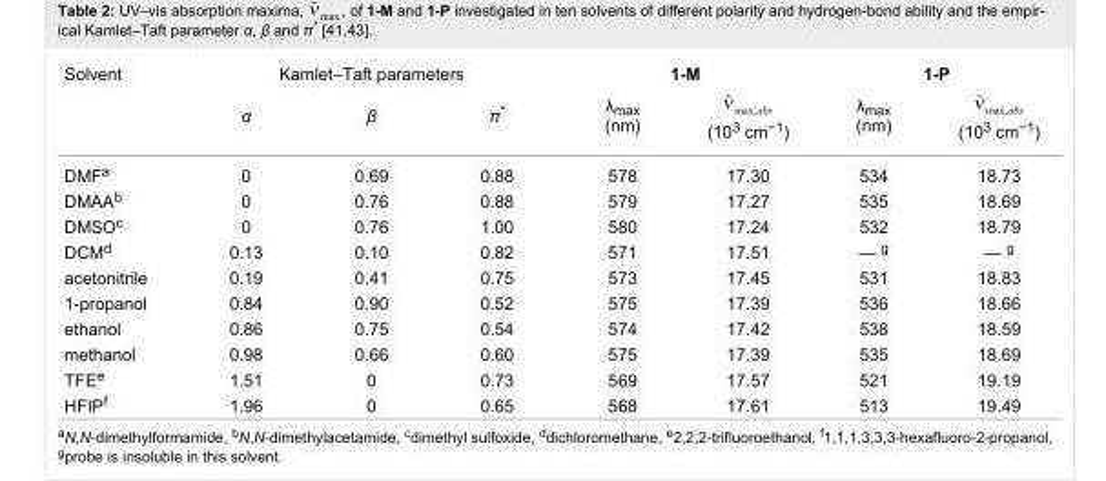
<table><tbody><tr><td rowspan="2">Solvent</td><td colspan="3">Kamlet–Taft parameters</td><td colspan="2">1-M</td><td colspan="2">1-P</td></tr><tr><td>α</td><td>β</td><td>π*</td><td>λ<sub>max</sub> (nm)</td><td>(10<sup>3</sup> cm<sup>−1</sup>)</td><td>λ<sub>max</sub> (nm)</td><td>(10<sup>3</sup> cm<sup>−1</sup>)</td></tr><tr><td>DMF<sup>a</sup></td><td>0</td><td>0.69</td><td>0.88</td><td>578</td><td>17.30</td><td>534</td><td>18.73</td></tr><tr><td>DMAA<sup>b</sup></td><td>0</td><td>0.76</td><td>0.88</td><td>579</td><td>17.27</td><td>535</td><td>18.69</td></tr><tr><td>DMSO<sup>c</sup></td><td>0</td><td>0.76</td><td>1.00</td><td>580</td><td>17.24</td><td>532</td><td>18.79</td></tr><tr><td>DCM<sup>d</sup></td><td>0.13</td><td>0.10</td><td>0.82</td><td>571</td><td>17.51</td><td>— <sup>g</sup></td><td>— <sup>g</sup></td></tr><tr><td>acetonitrile</td><td>0.19</td><td>0.41</td><td>0.75</td><td>573</td><td>17.45</td><td>531</td><td>18.83</td></tr><tr><td>1-propanol</td><td>0.84</td><td>0.90</td><td>0.52</td><td>575</td><td>17.39</td><td>536</td><td>18.66</td></tr><tr><td>ethanol</td><td>0.86</td><td>0.75</td><td>0.54</td><td>574</td><td>17.42</td><td>538</td><td>18.59</td></tr><tr><td>methanol</td><td>0.98</td><td>0.66</td><td>0.60</td><td>575</td><td>17.39</td><td>535</td><td>18.69</td></tr><tr><td>TFE<sup>e</sup></td><td>1.51</td><td>0</td><td>0.73</td><td>569</td><td>17.57</td><td>521</td><td>19.19</td></tr><tr><td>HFIP<sup>f</sup></td><td>1.96</td><td>0</td><td>0.65</td><td>568</td><td>17.61</td><td>513</td><td>19.49</td></tr></tbody></table>